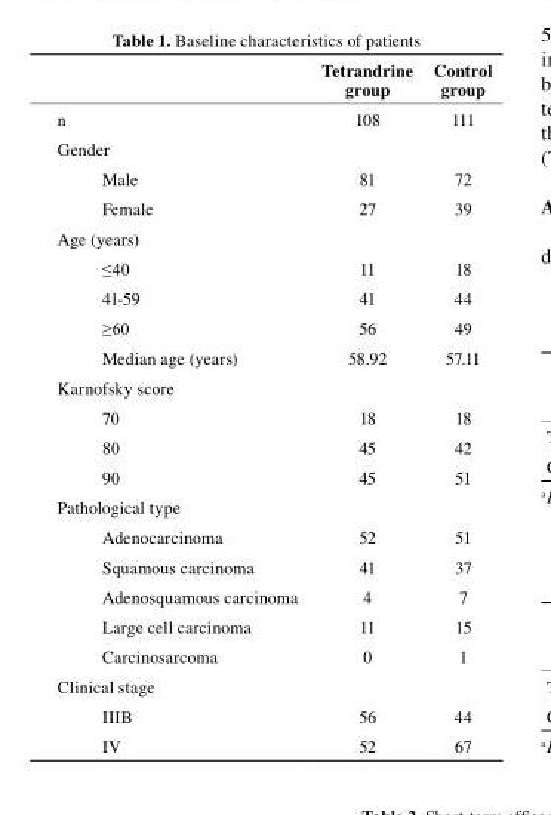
<table><thead><tr><td></td><td>tetrandrine group</td><td>control group</td></tr></thead><tbody><tr><td>n</td><td>108</td><td>111</td></tr><tr><td colspan="3">Gender</td></tr><tr><td>Male</td><td>81</td><td>72</td></tr><tr><td>Female</td><td>27</td><td>39</td></tr><tr><td colspan="3">Age (years)</td></tr><tr><td>≤40</td><td>11</td><td>18</td></tr><tr><td>41-59</td><td>41</td><td>44</td></tr><tr><td>≥60</td><td>56</td><td>49</td></tr><tr><td>Median age (years)</td><td>58.92</td><td>57.11</td></tr><tr><td colspan="3">Karnofsky score</td></tr><tr><td>70</td><td>18</td><td>18</td></tr><tr><td>80</td><td>45</td><td>42</td></tr><tr><td>90</td><td>45</td><td>51</td></tr><tr><td colspan="3">Pathological type</td></tr><tr><td>Adenocarcinoma</td><td>52</td><td>51</td></tr><tr><td>Squamous carcinoma</td><td>41</td><td>37</td></tr><tr><td>Adenosquamous carcinoma</td><td>4</td><td>7</td></tr><tr><td>Large cell carcinoma</td><td>11</td><td>15</td></tr><tr><td>Carcinosarcoma</td><td>0</td><td>1</td></tr><tr><td colspan="3">Clinical stage</td></tr><tr><td>IIIB</td><td>56</td><td>44</td></tr><tr><td>IV</td><td>52</td><td>67</td></tr></tbody></table>